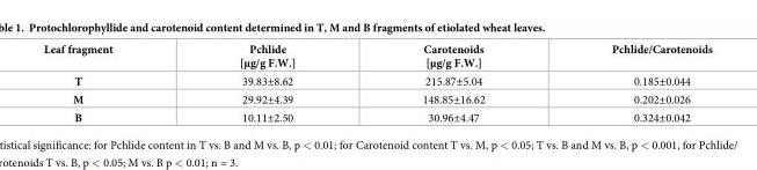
<table><thead><tr><td>Leaf fragment</td><td>Pchlide [μg/g F.W.]</td><td>Carotenoids [μg/g F.W.]</td><td>Pchlide/Carotenoids</td></tr></thead><tbody><tr><td>T</td><td>39.83±8.62</td><td>215.87±5.04</td><td>0.185±0.044</td></tr><tr><td>M</td><td>29.92±4.39</td><td>148.85±16.62</td><td>0.202±0.026</td></tr><tr><td>B</td><td>10.11±2.50</td><td>30.96±4.47</td><td>0.324±0.042</td></tr></tbody></table>